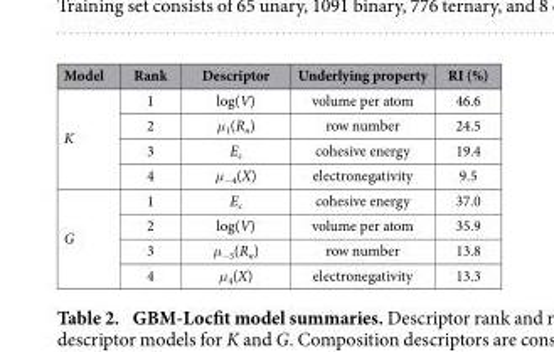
<table><thead><tr><td>Model</td><td>Rank</td><td>Descriptor</td><td>Underlying property</td><td>RI (%)</td></tr></thead><tbody><tr><td rowspan="4">K</td><td>1</td><td>log(V)</td><td>volume per atom</td><td>46.6</td></tr><tr><td>2</td><td>μ<sub>1</sub>(R<sub>n</sub>)</td><td>row number</td><td>24.5</td></tr><tr><td>3</td><td>E<sub>c</sub></td><td>cohesive energy</td><td>19.4</td></tr><tr><td>4</td><td>μ<sub>−4</sub>(X)</td><td>electronegativity</td><td>9.5</td></tr><tr><td rowspan="4">G</td><td>1</td><td>E<sub>c</sub></td><td>cohesive energy</td><td>37.0</td></tr><tr><td>2</td><td>log(V)</td><td>volume per atom</td><td>35.9</td></tr><tr><td>3</td><td>μ<sub>−3</sub>(R<sub>n</sub>)</td><td>row number</td><td>13.8</td></tr><tr><td>4</td><td>μ<sub>4</sub>(X)</td><td>electronegativity</td><td>13.3</td></tr></tbody></table>